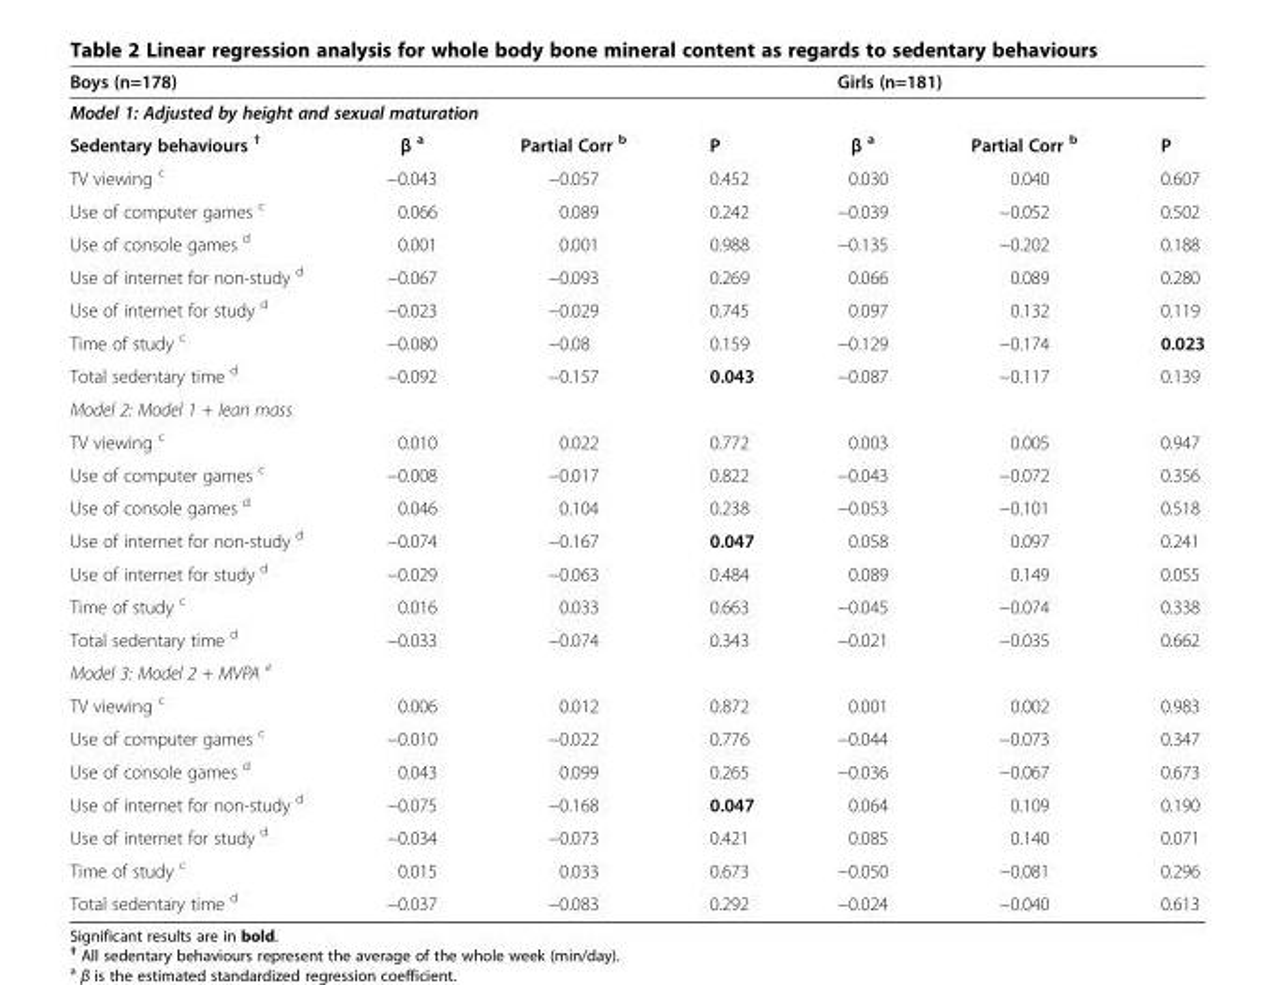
<table><thead><tr><td rowspan="2" colspan="4">Boys (n=178) Model 1: Adjusted by height and sexual maturation</td><td rowspan="2" colspan="3">Girls (n=181)</td></tr><tr></tr><tr><td>Sedentary behaviours <sup>†</sup></td><td>β <sup>a</sup></td><td>Partial Corr <sup>b</sup></td><td>P</td><td>β <sup>a</sup></td><td>Partial Corr <sup>b</sup></td><td>P</td></tr></thead><tbody><tr><td>TV viewing <sup>c</sup></td><td>−0.043</td><td>−0.057</td><td>0.452</td><td>0.030</td><td>0.040</td><td>0.607</td></tr><tr><td>Use of computer games <sup>c</sup></td><td>0.066</td><td>0.089</td><td>0.242</td><td>−0.039</td><td>−0.052</td><td>0.502</td></tr><tr><td>Use of console games <sup>d</sup></td><td>0.001</td><td>0.001</td><td>0.988</td><td>−0.135</td><td>−0.202</td><td>0.188</td></tr><tr><td>Use of internet for non-study <sup>d</sup></td><td>−0.067</td><td>−0.093</td><td>0.269</td><td>0.066</td><td>0.089</td><td>0.280</td></tr><tr><td>Use of internet for study <sup>d</sup></td><td>−0.023</td><td>−0.029</td><td>0.745</td><td>0.097</td><td>0.132</td><td>0.119</td></tr><tr><td>Time of study <sup>c</sup></td><td>−0.080</td><td>−0.08</td><td>0.159</td><td>−0.129</td><td>−0.174</td><td>0.023</td></tr><tr><td>Total sedentary time <sup>d</sup></td><td>−0.092</td><td>−0.157</td><td>0.043</td><td>−0.087</td><td>−0.117</td><td>0.139</td></tr><tr><td colspan="7">Model 2: Model 1 + lean mass</td></tr><tr><td>TV viewing <sup>c</sup></td><td>0.010</td><td>0.022</td><td>0.772</td><td>0.003</td><td>0.005</td><td>0.947</td></tr><tr><td>Use of computer games <sup>c</sup></td><td>−0.008</td><td>−0.017</td><td>0.822</td><td>−0.043</td><td>−0.072</td><td>0.356</td></tr><tr><td>Use of console games <sup>d</sup></td><td>0.046</td><td>0.104</td><td>0.238</td><td>−0.053</td><td>−0.101</td><td>0.518</td></tr><tr><td>Use of internet for non-study <sup>d</sup></td><td>−0.074</td><td>−0.167</td><td>0.047</td><td>0.058</td><td>0.097</td><td>0.241</td></tr><tr><td>Use of internet for study <sup>d</sup></td><td>−0.029</td><td>−0.063</td><td>0.484</td><td>0.089</td><td>0.149</td><td>0.055</td></tr><tr><td>Time of study <sup>c</sup></td><td>0.016</td><td>0.033</td><td>0.663</td><td>−0.045</td><td>−0.074</td><td>0.338</td></tr><tr><td>Total sedentary time <sup>d</sup></td><td>−0.033</td><td>−0.074</td><td>0.343</td><td>−0.021</td><td>−0.035</td><td>0.662</td></tr><tr><td colspan="7">Model 3: Model 2 + MVPA <sup>e</sup></td></tr><tr><td>TV viewing <sup>c</sup></td><td>0.006</td><td>0.012</td><td>0.872</td><td>0.001</td><td>0.002</td><td>0.983</td></tr><tr><td>Use of computer games <sup>c</sup></td><td>−0.010</td><td>−0.022</td><td>0.776</td><td>−0.044</td><td>−0.073</td><td>0.347</td></tr><tr><td>Use of console games <sup>d</sup></td><td>0.043</td><td>0.099</td><td>0.265</td><td>−0.036</td><td>−0.067</td><td>0.673</td></tr><tr><td>Use of internet for non-study <sup>d</sup></td><td>−0.075</td><td>−0.168</td><td>0.047</td><td>0.064</td><td>0.109</td><td>0.190</td></tr><tr><td>Use of internet for study <sup>d</sup></td><td>−0.034</td><td>−0.073</td><td>0.421</td><td>0.085</td><td>0.140</td><td>0.071</td></tr><tr><td>Time of study <sup>c</sup></td><td>0.015</td><td>0.033</td><td>0.673</td><td>−0.050</td><td>−0.081</td><td>0.296</td></tr><tr><td>Total sedentary time <sup>d</sup></td><td>−0.037</td><td>−0.083</td><td>0.292</td><td>−0.024</td><td>−0.040</td><td>0.613</td></tr></tbody></table>